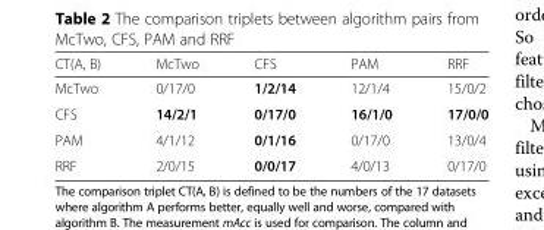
<table><thead><tr><td>CT(A, B)</td><td>McTwo</td><td>CFS</td><td>PAM</td><td>RRF</td></tr></thead><tbody><tr><td>McTwo</td><td>0/17/0</td><td>1/2/14</td><td>12/1/4</td><td>15/0/2</td></tr><tr><td>CFS</td><td>14/2/1</td><td>0/17/0</td><td>16/1/0</td><td>17/0/0</td></tr><tr><td>PAM</td><td>4/1/12</td><td>0/1/16</td><td>0/17/0</td><td>13/0/4</td></tr><tr><td>RRF</td><td>2/0/15</td><td>0/0/17</td><td>4/0/13</td><td>0/17/0</td></tr></tbody></table>